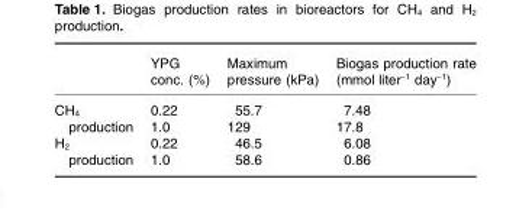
<table><thead><tr><td></td><td>YPG conc. (%)</td><td>Maximum pressure (kPa)</td><td>Biogas production rate (mmol liter<sup>−1</sup> day<sup>−1</sup>)</td></tr></thead><tbody><tr><td rowspan="2">CH<sub>4</sub> production</td><td>0.22</td><td>55.7</td><td>7.48</td></tr><tr><td>1.0</td><td>129</td><td>17.8</td></tr><tr><td rowspan="2">H<sub>2</sub> production</td><td>0.22</td><td>46.5</td><td>6.08</td></tr><tr><td>1.0</td><td>58.6</td><td>0.86</td></tr></tbody></table>